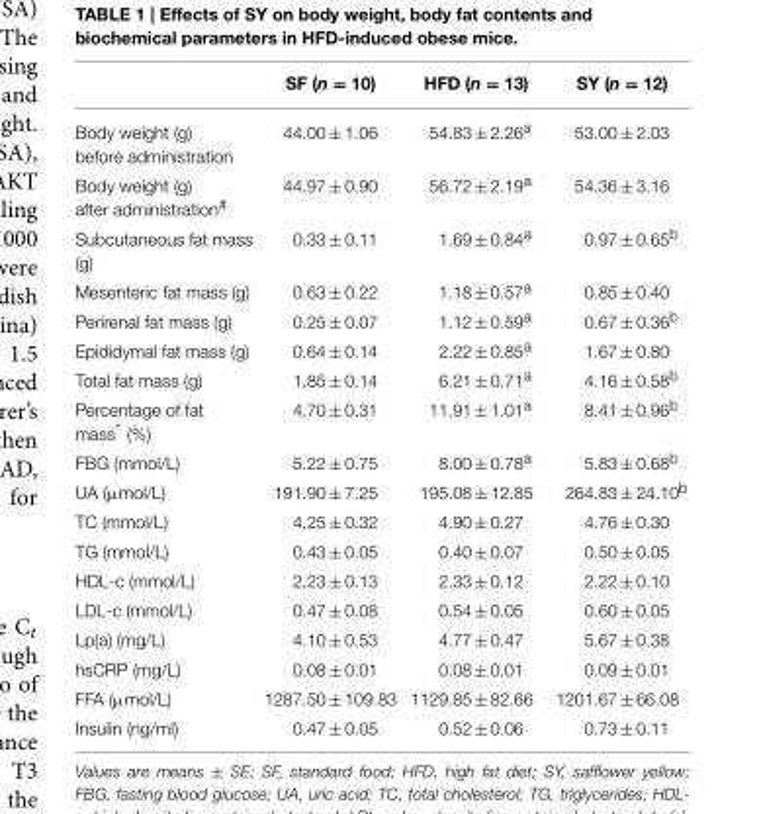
<table><thead><tr><td></td><td>SF (n = 10)</td><td>HFD (n = 13)</td><td>SY (n = 12)</td></tr></thead><tbody><tr><td>Body weight (g) before administration</td><td>44.00 ± 1.06</td><td>54.83 ± 2.26a</td><td>53.00 ± 2.03</td></tr><tr><td>Body weight (g) after administration<sup>#</sup></td><td>44.97 ± 0.90</td><td>56.72 ± 2.19<sup>a</sup></td><td>54.36 ± 3.16</td></tr><tr><td>Subcutaneous fat mass (g)</td><td>0.33 ± 0.11</td><td>1.69 ± 0.84<sup>a</sup></td><td>0.97 ± 0.65<sup>b</sup></td></tr><tr><td>Mesenteric fat mass (g)</td><td>0.63 ± 0.22</td><td>1.18 ± 0.57<sup>a</sup></td><td>0.85 ± 0.40</td></tr><tr><td>Perirenal fat mass (g)</td><td>0.25 ± 0.07</td><td>1.12 ± 0.59<sup>a</sup></td><td>0.67 ± 0.36<sup>b</sup></td></tr><tr><td>Epididymal fat mass (g)</td><td>0.64 ± 0.14</td><td>2.22 ± 0.85<sup>a</sup></td><td>1.67 ± 0.80</td></tr><tr><td>Total fat mass (g)</td><td>1.85 ± 0.14</td><td>6.21 ± 0.71<sup>a</sup></td><td>4.16 ± 0.58<sup>b</sup></td></tr><tr><td>Percentage of fat mass* (%)</td><td>4.70 ± 0.31</td><td>11.91 ± 1.01<sup>a</sup></td><td>8.41 ± 0.96<sup>b</sup></td></tr><tr><td>FBG (mmol/L)</td><td>5.22 ± 0.75</td><td>8.00 ± 0.78<sup>a</sup></td><td>5.83 ± 0.68<sup>b</sup></td></tr><tr><td>UA (µmol/L)</td><td>191.90 ± 7.25</td><td>195.08 ± 12.85</td><td>264.83 ± 24.10<sup>b</sup></td></tr><tr><td>TC (mmol/L)</td><td>4.25 ± 0.32</td><td>4.90 ± 0.27</td><td>4.76 ± 0.30</td></tr><tr><td>TG (mmol/L)</td><td>0.43 ± 0.05</td><td>0.40 ± 0.07</td><td>0.50 ± 0.05</td></tr><tr><td>HDL-c (mmol/L)</td><td>2.23 ± 0.13</td><td>2.33 ± 0.12</td><td>2.22 ± 0.10</td></tr><tr><td>LDL-c (mmol/L)</td><td>0.47 ± 0.08</td><td>0.54 ± 0.05</td><td>0.60 ± 0.05</td></tr><tr><td>Lp(a) (mg/L)</td><td>4.10 ± 0.53</td><td>4.77 ± 0.47</td><td>5.67 ± 0.38</td></tr><tr><td>hsCRP (mg/L)</td><td>0.08 ± 0.01</td><td>0.08 ± 0.01</td><td>0.09 ± 0.01</td></tr><tr><td>FFA (µmol/L)</td><td>1287.50 ± 109.83</td><td>1129.85 ± 82.66</td><td>1201.67 ± 66.08</td></tr><tr><td>Insulin (ng/ml)</td><td>0.47 ± 0.05</td><td>0.52 ± 0.06</td><td>0.73 ± 0.11</td></tr></tbody></table>